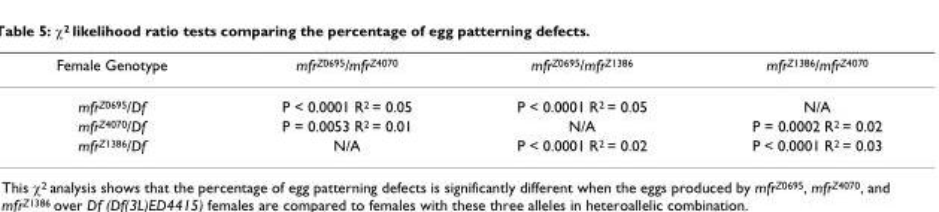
<table><thead><tr><td>Female Genotype</td><td>mfr<sup>Z0695</sup>/mfr<sup>Z4070</sup></td><td>mfr<sup>Z0695</sup>/mfr<sup>Z1386</sup></td><td>mfr<sup>Z1386</sup>/mfr<sup>Z4070</sup></td></tr></thead><tbody><tr><td>mfr<sup>Z0695</sup>/Df</td><td>P &lt; 0.0001 R<sup>2</sup> = 0.05</td><td>P &lt; 0.0001 R<sup>2</sup> = 0.05</td><td>N/A</td></tr><tr><td>mfr<sup>Z4070</sup>/Df</td><td>P = 0.0053 R<sup>2</sup> = 0.01</td><td>N/A</td><td>P = 0.0002 R<sup>2</sup> = 0.02</td></tr><tr><td>mfr<sup>Z1386</sup>/Df</td><td>N/A</td><td>P &lt; 0.0001 R<sup>2</sup> = 0.02</td><td>P &lt; 0.0001 R<sup>2</sup> = 0.03</td></tr></tbody></table>